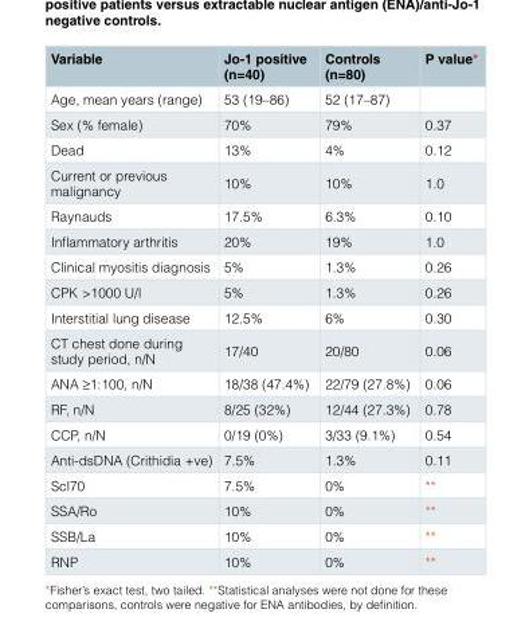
<table><thead><tr><td>Variable</td><td>Jo-1 positive (n=40)</td><td>Controls (n=80)</td><td>P value*</td></tr></thead><tbody><tr><td>Age, mean years (range)</td><td>53 (19–86)</td><td>52 (17–87)</td><td></td></tr><tr><td>Sex (% female)</td><td>70%</td><td>79%</td><td>0.37</td></tr><tr><td>Dead</td><td>13%</td><td>4%</td><td>0.12</td></tr><tr><td>Current or previous malignancy</td><td>10%</td><td>10%</td><td>1.0</td></tr><tr><td>Raynauds</td><td>17.5%</td><td>6.3%</td><td>0.10</td></tr><tr><td>Inflammatory arthritis</td><td>20%</td><td>19%</td><td>1.0</td></tr><tr><td>Clinical myositis diagnosis</td><td>5%</td><td>1.3%</td><td>0.26</td></tr><tr><td>CPK &gt;1000 U/l</td><td>5%</td><td>1.3%</td><td>0.26</td></tr><tr><td>Interstitial lung disease</td><td>12.5%</td><td>6%</td><td>0.30</td></tr><tr><td>CT chest done during study period, n/N</td><td>17/40</td><td>20/80</td><td>0.06</td></tr><tr><td>ANA ≥1:100, n/N</td><td>18/38 (47.4%)</td><td>22/79 (27.8%)</td><td>0.06</td></tr><tr><td>RF, n/N</td><td>8/25 (32%)</td><td>12/44 (27.3%)</td><td>0.78</td></tr><tr><td>CCP, n/N</td><td>0/19 (0%)</td><td>3/33 (9.1%)</td><td>0.54</td></tr><tr><td>Anti-dsDNA (Crithidia +ve)</td><td>7.5%</td><td>1.3%</td><td>0.11</td></tr><tr><td>Scl70</td><td>7.5%</td><td>0%</td><td>**</td></tr><tr><td>SSA/Ro</td><td>10%</td><td>0%</td><td>**</td></tr><tr><td>SSB/La</td><td>10%</td><td>0%</td><td>**</td></tr><tr><td>RNP</td><td>10%</td><td>0%</td><td>**</td></tr></tbody></table>